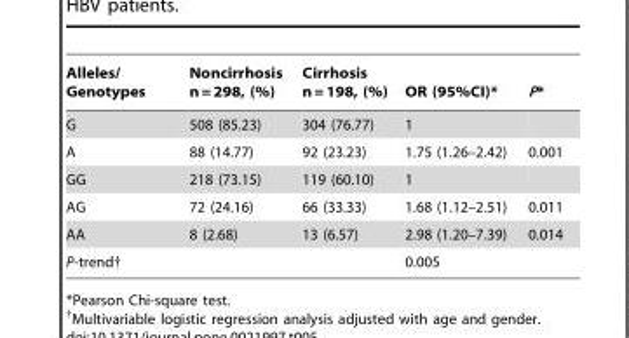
<table><thead><tr><td>Alleles/ Genotypes</td><td>Noncirrhosis n = 298, (%)</td><td>Cirrhosis n = 198, (%)</td><td>OR (95%CI)*</td><td>P*</td></tr></thead><tbody><tr><td>G</td><td>508 (85.23)</td><td>304 (76.77)</td><td>1</td><td></td></tr><tr><td>A</td><td>88 (14.77)</td><td>92 (23.23)</td><td>1.75 (1.26–2.42)</td><td>0.001</td></tr><tr><td>GG</td><td>218 (73.15)</td><td>119 (60.10)</td><td>1</td><td></td></tr><tr><td>AG</td><td>72 (24.16)</td><td>66 (33.33)</td><td>1.68 (1.12–2.51)</td><td>0.011</td></tr><tr><td>AA</td><td>8 (2.68)</td><td>13 (6.57)</td><td>2.98 (1.20–7.39)</td><td>0.014</td></tr><tr><td>P-trend†</td><td></td><td></td><td>0.005</td><td></td></tr></tbody></table>